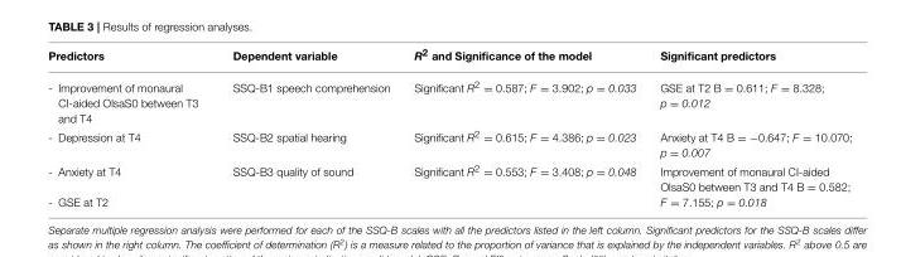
<table><thead><tr><td>Predictors</td><td>Dependent variable</td><td>R<sup>2</sup> and Significance of the model</td><td>Significant predictors</td></tr></thead><tbody><tr><td>- Improvement of monaural CI-aided OlsaS0 between T3 and T4</td><td>SSQ-B1 speech comprehension</td><td>Significant R<sup>2</sup> = 0.587; F = 3.902; p = 0.033</td><td>GSE at T2 B = 0.611; F = 8.328; p = 0.012</td></tr><tr><td>- Depression at T4</td><td>SSQ-B2 spatial hearing</td><td>Significant R<sup>2</sup> = 0.615; F = 4.386; p = 0.023</td><td>Anxiety at T4 B = −0.647; F = 10.070; p = 0.007</td></tr><tr><td>- Anxiety at T4</td><td>SSQ-B3 quality of sound</td><td>Significant R<sup>2</sup> = 0.553; F = 3.408; p = 0.048</td><td>Improvement of monaural CI-aided OlsaS0 between T3 and T4 B = 0.582;</td></tr><tr><td>- GSE at T2</td><td></td><td></td><td>F = 7.155; p = 0.018</td></tr></tbody></table>